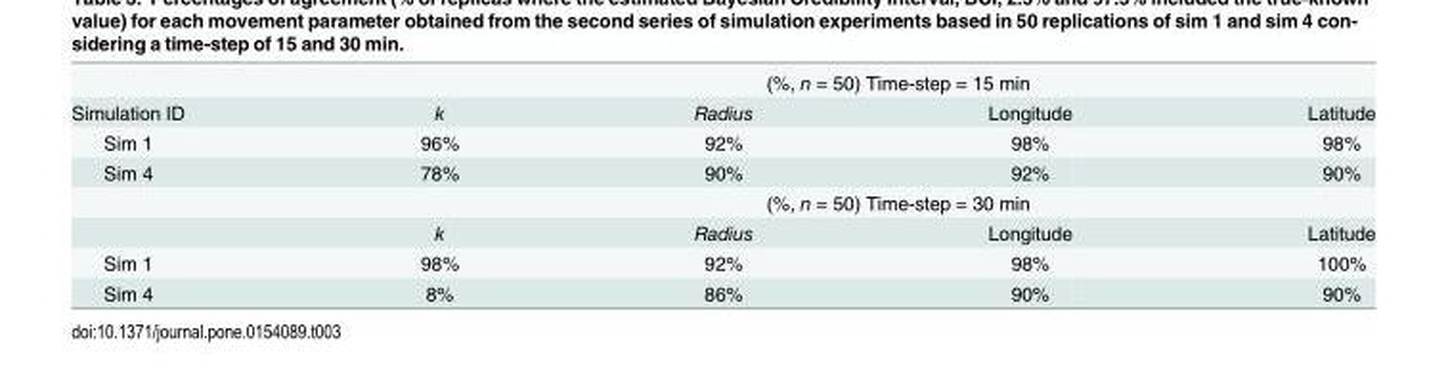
<table><thead><tr><td rowspan="2">Simulation ID</td><td colspan="4">(%, n = 50) Time-step = 15 min</td></tr><tr><td>k</td><td>Radius</td><td>Longitude</td><td>Latitude</td></tr></thead><tbody><tr><td>Sim 1</td><td>96%</td><td>92%</td><td>98%</td><td>98%</td></tr><tr><td rowspan="3">Sim 4</td><td>78%</td><td>90%</td><td>92%</td><td>90%</td></tr><tr><td colspan="4">(%, n = 50) Time-step = 30 min</td></tr><tr><td>k</td><td>Radius</td><td>Longitude</td><td>Latitude</td></tr><tr><td>Sim 1</td><td>98%</td><td>92%</td><td>98%</td><td>100%</td></tr><tr><td>Sim 4</td><td>8%</td><td>86%</td><td>90%</td><td>90%</td></tr></tbody></table>